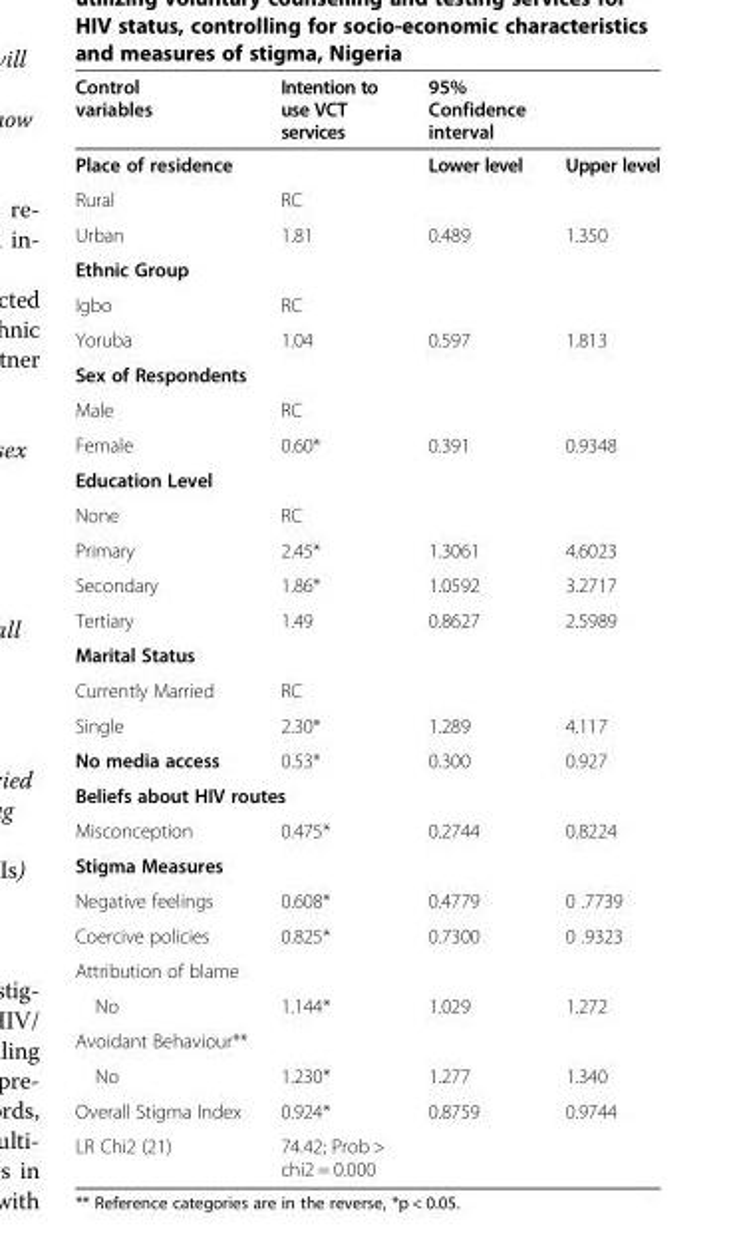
<table><thead><tr><td>Control variables</td><td>Intention to use VCT services</td><td>95% Confidence interval</td><td></td></tr></thead><tbody><tr><td>Place of residence</td><td></td><td>Lower level</td><td>Upper level</td></tr><tr><td>Rural</td><td>RC</td><td></td><td></td></tr><tr><td>Urban</td><td>1.81</td><td>0.489</td><td>1.350</td></tr><tr><td colspan="4">Ethnic Group</td></tr><tr><td>Igbo</td><td>RC</td><td></td><td></td></tr><tr><td>Yoruba</td><td>1.04</td><td>0.597</td><td>1.813</td></tr><tr><td colspan="4">Sex of Respondents</td></tr><tr><td>Male</td><td>RC</td><td></td><td></td></tr><tr><td>Female</td><td>0.60*</td><td>0.391</td><td>0.9348</td></tr><tr><td colspan="4">Education Level</td></tr><tr><td>None</td><td>RC</td><td></td><td></td></tr><tr><td>Primary</td><td>2.45*</td><td>1.3061</td><td>4.6023</td></tr><tr><td>Secondary</td><td>1.86*</td><td>1.0592</td><td>3.2717</td></tr><tr><td>Tertiary</td><td>1.49</td><td>0.8627</td><td>2.5989</td></tr><tr><td colspan="4">Marital Status</td></tr><tr><td>Currently Married</td><td>RC</td><td></td><td></td></tr><tr><td>Single</td><td>2.30*</td><td>1.289</td><td>4.117</td></tr><tr><td>No media access</td><td>0.53*</td><td>0.300</td><td>0.927</td></tr><tr><td colspan="4">Beliefs about HIV routes</td></tr><tr><td>Misconception</td><td>0.475*</td><td>0.2744</td><td>0.8224</td></tr><tr><td colspan="4">Stigma Measures</td></tr><tr><td>Negative feelings</td><td>0.608*</td><td>0.4779</td><td>0 .7739</td></tr><tr><td>Coercive policies</td><td>0.825*</td><td>0.7300</td><td>0 .9323</td></tr><tr><td colspan="4">Attribution of blame</td></tr><tr><td>No</td><td>1.144*</td><td>1.029</td><td>1.272</td></tr><tr><td colspan="4">Avoidant Behaviour**</td></tr><tr><td>No</td><td>1.230*</td><td>1.277</td><td>1.340</td></tr><tr><td>Overall Stigma Index</td><td>0.924*</td><td>0.8759</td><td>0.9744</td></tr><tr><td>LR Chi2 (21)</td><td>74.42; Prob &gt; chi2 = 0.000</td><td></td><td></td></tr></tbody></table>